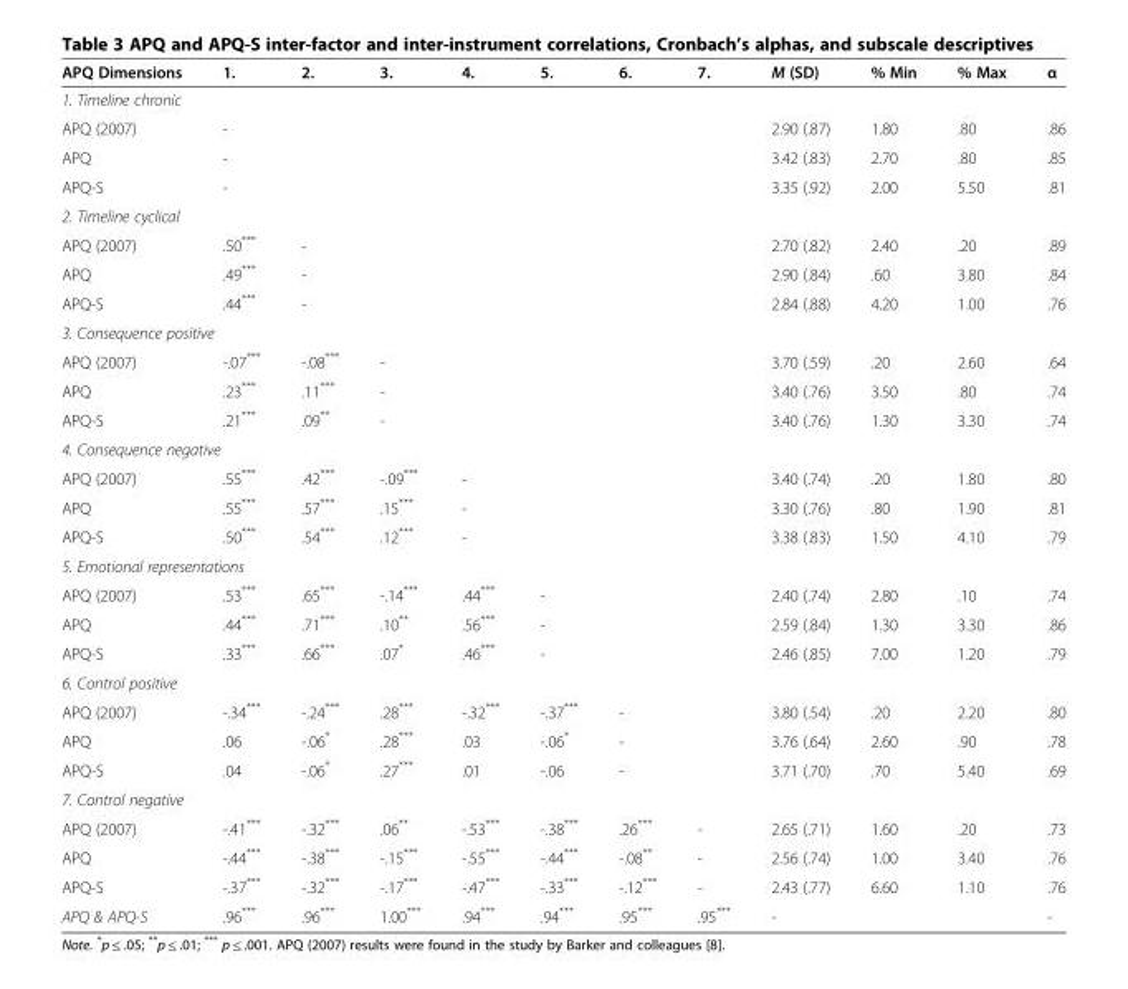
<table><thead><tr><td>APQ Dimensions</td><td>1.</td><td>2.</td><td>3.</td><td>4.</td><td>5.</td><td>6.</td><td>7.</td><td>M (SD)</td><td>% Min</td><td>% Max</td><td>α</td></tr></thead><tbody><tr><td colspan="12">1. Timeline chronic</td></tr><tr><td>APQ (2007)</td><td>-</td><td></td><td></td><td></td><td></td><td></td><td></td><td>2.90 (.87)</td><td>1.80</td><td>.80</td><td>.86</td></tr><tr><td>APQ</td><td>-</td><td></td><td></td><td></td><td></td><td></td><td></td><td>3.42 (.83)</td><td>2.70</td><td>.80</td><td>.85</td></tr><tr><td>APQ-S</td><td>-</td><td></td><td></td><td></td><td></td><td></td><td></td><td>3.35 (.92)</td><td>2.00</td><td>5.50</td><td>.81</td></tr><tr><td colspan="12">2. Timeline cyclical</td></tr><tr><td>APQ (2007)</td><td>.50***</td><td>-</td><td></td><td></td><td></td><td></td><td></td><td>2.70 (.82)</td><td>2.40</td><td>.20</td><td>.89</td></tr><tr><td>APQ</td><td>.49***</td><td>-</td><td></td><td></td><td></td><td></td><td></td><td>2.90 (.84)</td><td>.60</td><td>3.80</td><td>.84</td></tr><tr><td>APQ-S</td><td>.44***</td><td>-</td><td></td><td></td><td></td><td></td><td></td><td>2.84 (.88)</td><td>4.20</td><td>1.00</td><td>.76</td></tr><tr><td colspan="12">3. Consequence positive</td></tr><tr><td>APQ (2007)</td><td>-.07***</td><td>-.08***</td><td>-</td><td></td><td></td><td></td><td></td><td>3.70 (.59)</td><td>.20</td><td>2.60</td><td>.64</td></tr><tr><td>APQ</td><td>.23***</td><td>.11***</td><td>-</td><td></td><td></td><td></td><td></td><td>3.40 (.76)</td><td>3.50</td><td>.80</td><td>.74</td></tr><tr><td>APQ-S</td><td>.21***</td><td>.09**</td><td>-</td><td></td><td></td><td></td><td></td><td>3.40 (.76)</td><td>1.30</td><td>3.30</td><td>.74</td></tr><tr><td colspan="12">4. Consequence negative</td></tr><tr><td>APQ (2007)</td><td>.55***</td><td>.42***</td><td>-.09***</td><td>-</td><td></td><td></td><td></td><td>3.40 (.74)</td><td>.20</td><td>1.80</td><td>.80</td></tr><tr><td>APQ</td><td>.55***</td><td>.57***</td><td>.15***</td><td>-</td><td></td><td></td><td></td><td>3.30 (.76)</td><td>.80</td><td>1.90</td><td>.81</td></tr><tr><td>APQ-S</td><td>.50***</td><td>.54***</td><td>.12***</td><td>-</td><td></td><td></td><td></td><td>3.38 (.83)</td><td>1.50</td><td>4.10</td><td>.79</td></tr><tr><td colspan="12">5. Emotional representations</td></tr><tr><td>APQ (2007)</td><td>.53***</td><td>.65***</td><td>-.14***</td><td>.44***</td><td>-</td><td></td><td></td><td>2.40 (.74)</td><td>2.80</td><td>.10</td><td>.74</td></tr><tr><td>APQ</td><td>.44***</td><td>.71***</td><td>.10**</td><td>.56***</td><td>-</td><td></td><td></td><td>2.59 (.84)</td><td>1.30</td><td>3.30</td><td>.86</td></tr><tr><td>APQ-S</td><td>.33***</td><td>.66***</td><td>.07*</td><td>.46***</td><td>-</td><td></td><td></td><td>2.46 (.85)</td><td>7.00</td><td>1.20</td><td>.79</td></tr><tr><td colspan="12">6. Control positive</td></tr><tr><td>APQ (2007)</td><td>-.34***</td><td>-.24***</td><td>.28***</td><td>-.32***</td><td>-.37***</td><td>-</td><td></td><td>3.80 (.54)</td><td>.20</td><td>2.20</td><td>.80</td></tr><tr><td>APQ</td><td>.06</td><td>-.06*</td><td>.28***</td><td>.03</td><td>-.06*</td><td>-</td><td></td><td>3.76 (.64)</td><td>2.60</td><td>.90</td><td>.78</td></tr><tr><td>APQ-S</td><td>.04</td><td>-.06*</td><td>.27***</td><td>.01</td><td>-.06</td><td>-</td><td></td><td>3.71 (.70)</td><td>.70</td><td>5.40</td><td>.69</td></tr><tr><td colspan="12">7. Control negative</td></tr><tr><td>APQ (2007)</td><td>-.41***</td><td>-.32***</td><td>.06**</td><td>-.53***</td><td>-.38***</td><td>.26***</td><td>-</td><td>2.65 (.71)</td><td>1.60</td><td>.20</td><td>.73</td></tr><tr><td>APQ</td><td>-.44***</td><td>-.38***</td><td>-.15***</td><td>-.55***</td><td>-.44***</td><td>-.08**</td><td>-</td><td>2.56 (.74)</td><td>1.00</td><td>3.40</td><td>.76</td></tr><tr><td>APQ-S</td><td>-.37***</td><td>-.32***</td><td>-.17***</td><td>-.47***</td><td>-.33***</td><td>-.12***</td><td>-</td><td>2.43 (.77)</td><td>6.60</td><td>1.10</td><td>.76</td></tr><tr><td>APQ &amp; APQ-S</td><td>.96***</td><td>.96***</td><td>1.00***</td><td>.94***</td><td>.94***</td><td>.95***</td><td>.95***</td><td>-</td><td></td><td></td><td>-</td></tr></tbody></table>